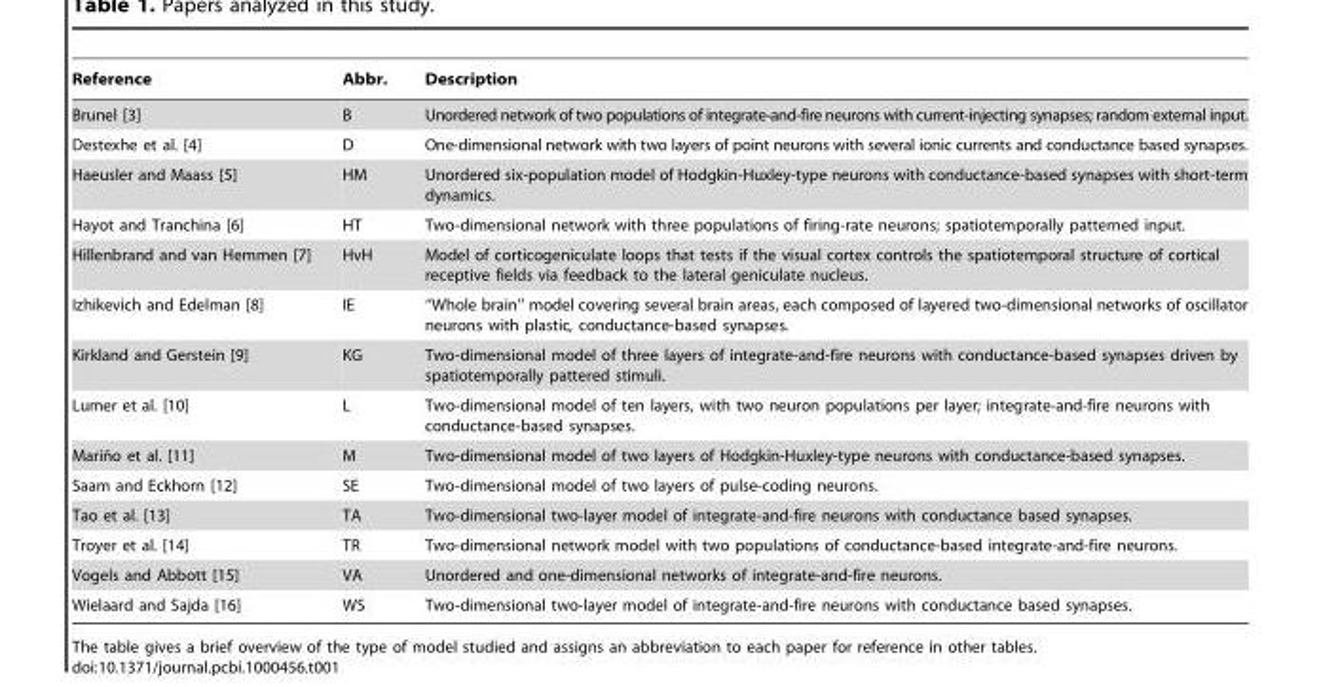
<table><thead><tr><td>Reference</td><td>Abbr.</td><td>Description</td></tr></thead><tbody><tr><td>Brunel [3]</td><td>B</td><td>Unordered network of two populations of integrate-and-fire neurons with current-injecting synapses; random external input.</td></tr><tr><td>Destexhe et al. [4]</td><td>D</td><td>One-dimensional network with two layers of point neurons with several ionic currents and conductance based synapses.</td></tr><tr><td>Haeusler and Maass [5]</td><td>HM</td><td>Unordered six-population model of Hodgkin-Huxley-type neurons with conductance-based synapses with short-term dynamics.</td></tr><tr><td>Hayot and Tranchina [6]</td><td>HT</td><td>Two-dimensional network with three populations of firing-rate neurons; spatiotemporally patterned input.</td></tr><tr><td>Hillenbrand and van Hemmen [7]</td><td>HvH</td><td>Model of corticogeniculate loops that tests if the visual cortex controls the spatiotemporal structure of cortical receptive fields via feedback to the lateral geniculate nucleus.</td></tr><tr><td>Izhikevich and Edelman [8]</td><td>IE</td><td>‘‘Whole brain’’ model covering several brain areas, each composed of layered two-dimensional networks of oscillator neurons with plastic, conductance-based synapses.</td></tr><tr><td>Kirkland and Gerstein [9]</td><td>KG</td><td>Two-dimensional model of three layers of integrate-and-fire neurons with conductance-based synapses driven by spatiotemporally pattered stimuli.</td></tr><tr><td>Lumer et al. [10]</td><td>L</td><td>Two-dimensional model of ten layers, with two neuron populations per layer; integrate-and-fire neurons with conductance-based synapses.</td></tr><tr><td>Marin˜o et al. [11]</td><td>M</td><td>Two-dimensional model of two layers of Hodgkin-Huxley-type neurons with conductance-based synapses.</td></tr><tr><td>Saam and Eckhorn [12]</td><td>SE</td><td>Two-dimensional model of two layers of pulse-coding neurons.</td></tr><tr><td>Tao et al. [13]</td><td>TA</td><td>Two-dimensional two-layer model of integrate-and-fire neurons with conductance based synapses.</td></tr><tr><td>Troyer et al. [14]</td><td>TR</td><td>Two-dimensional network model with two populations of conductance-based integrate-and-fire neurons.</td></tr><tr><td>Vogels and Abbott [15]</td><td>VA</td><td>Unordered and one-dimensional networks of integrate-and-fire neurons.</td></tr><tr><td>Wielaard and Sajda [16]</td><td>WS</td><td>Two-dimensional two-layer model of integrate-and-fire neurons with conductance based synapses.</td></tr></tbody></table>